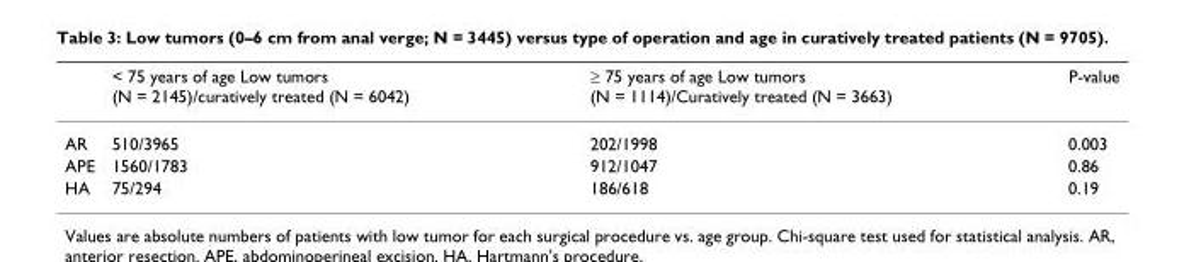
<table><thead><tr><td></td><td>&lt; 75 years of age Low tumors (N = 2145)/curatively treated (N = 6042)</td><td>≥ 75 years of age Low tumors (N = 1114)/Curatively treated (N = 3663)</td><td>P-value</td></tr></thead><tbody><tr><td>AR</td><td>510/3965</td><td>202/1998</td><td>0.003</td></tr><tr><td>APE</td><td>1560/1783</td><td>912/1047</td><td>0.86</td></tr><tr><td>HA</td><td>75/294</td><td>186/618</td><td>0.19</td></tr></tbody></table>